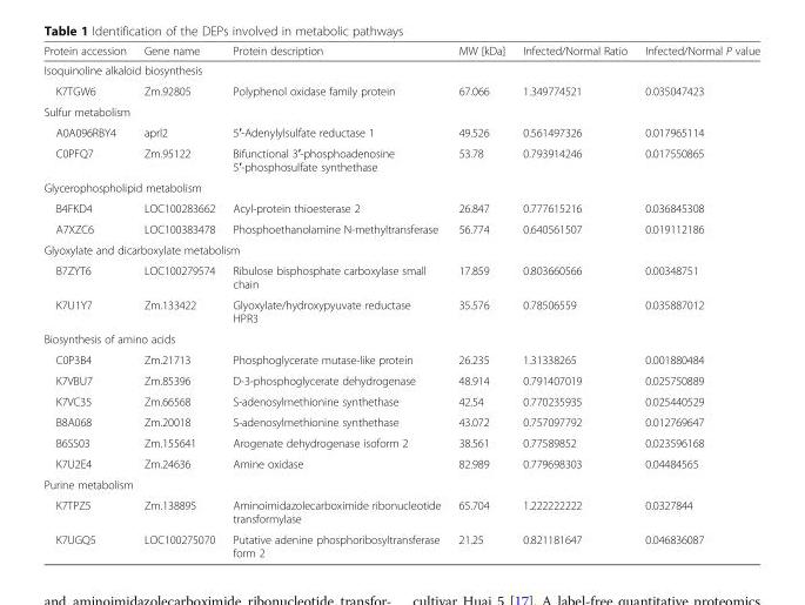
<table><thead><tr><td>Protein accession</td><td>Gene name</td><td>Protein description</td><td>MW [kDa]</td><td>Infected/Normal Ratio</td><td>Infected/Normal P value</td></tr></thead><tbody><tr><td colspan="6">Isoquinoline alkaloid biosynthesis</td></tr><tr><td>K7TGW6</td><td>Zm.92805</td><td>Polyphenol oxidase family protein</td><td>67.066</td><td>1.349774521</td><td>0.035047423</td></tr><tr><td colspan="6">Sulfur metabolism</td></tr><tr><td>A0A096RBY4</td><td>aprl2</td><td>5′-Adenylylsulfate reductase 1</td><td>49.526</td><td>0.561497326</td><td>0.017965114</td></tr><tr><td>C0PFQ7</td><td>Zm.95122</td><td>Bifunctional 3′-phosphoadenosine 5′-phosphosulfate synthethase</td><td>53.78</td><td>0.793914246</td><td>0.017550865</td></tr><tr><td colspan="6">Glycerophospholipid metabolism</td></tr><tr><td>B4FKD4</td><td>LOC100283662</td><td>Acyl-protein thioesterase 2</td><td>26.847</td><td>0.777615216</td><td>0.036845308</td></tr><tr><td>A7XZC6</td><td>LOC100383478</td><td>Phosphoethanolamine N-methyltransferase</td><td>56.774</td><td>0.640561507</td><td>0.019112186</td></tr><tr><td colspan="6">Glyoxylate and dicarboxylate metabolism</td></tr><tr><td>B7ZYT6</td><td>LOC100279574</td><td>Ribulose bisphosphate carboxylase small chain</td><td>17.859</td><td>0.803660566</td><td>0.00348751</td></tr><tr><td>K7U1Y7</td><td>Zm.133422</td><td>Glyoxylate/hydroxypyuvate reductase HPR3</td><td>35.576</td><td>0.78506559</td><td>0.035887012</td></tr><tr><td colspan="6">Biosynthesis of amino acids</td></tr><tr><td>C0P3B4</td><td>Zm.21713</td><td>Phosphoglycerate mutase-like protein</td><td>26.235</td><td>1.31338265</td><td>0.001880484</td></tr><tr><td>K7VBU7</td><td>Zm.85396</td><td>D-3-phosphoglycerate dehydrogenase</td><td>48.914</td><td>0.791407019</td><td>0.025750889</td></tr><tr><td>K7VC35</td><td>Zm.66568</td><td>S-adenosylmethionine synthethase</td><td>42.54</td><td>0.770235935</td><td>0.025440529</td></tr><tr><td>B8A068</td><td>Zm.20018</td><td>S-adenosylmethionine synthethase</td><td>43.072</td><td>0.757097792</td><td>0.012769647</td></tr><tr><td>B6SS03</td><td>Zm.155641</td><td>Arogenate dehydrogenase isoform 2</td><td>38.561</td><td>0.77589852</td><td>0.023596168</td></tr><tr><td>K7U2E4</td><td>Zm.24636</td><td>Amine oxidase</td><td>82.989</td><td>0.779698303</td><td>0.04484565</td></tr><tr><td colspan="6">Purine metabolism</td></tr><tr><td>K7TPZ5</td><td>Zm.138895</td><td>Aminoimidazolecarboximide ribonucleotide transformylase</td><td>65.704</td><td>1.222222222</td><td>0.0327844</td></tr><tr><td>K7UGQ5</td><td>LOC100275070</td><td>Putative adenine phosphoribosyltransferase form 2</td><td>21.25</td><td>0.821181647</td><td>0.046836087</td></tr></tbody></table>